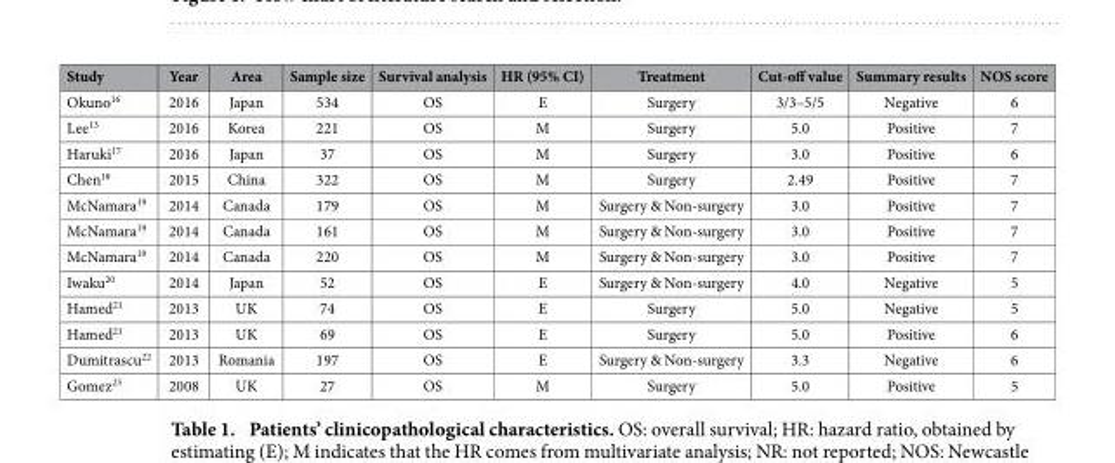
<table><thead><tr><td>Study</td><td>Year</td><td>Area</td><td>Sample size</td><td>Survival analysis</td><td>HR (95% CI)</td><td>Treatment</td><td>Cut-off value</td><td>Summary results</td><td>NOS score</td></tr></thead><tbody><tr><td>Okuno<sup>16</sup></td><td>2016</td><td>Japan</td><td>534</td><td>OS</td><td>E</td><td>Surgery</td><td>3/3–5/5</td><td>Negative</td><td>6</td></tr><tr><td>Lee<sup>13</sup></td><td>2016</td><td>Korea</td><td>221</td><td>OS</td><td>M</td><td>Surgery</td><td>5.0</td><td>Positive</td><td>7</td></tr><tr><td>Haruki<sup>17</sup></td><td>2016</td><td>Japan</td><td>37</td><td>OS</td><td>M</td><td>Surgery</td><td>3.0</td><td>Positive</td><td>6</td></tr><tr><td>Chen<sup>18</sup></td><td>2015</td><td>China</td><td>322</td><td>OS</td><td>M</td><td>Surgery</td><td>2.49</td><td>Positive</td><td>7</td></tr><tr><td>McNamara<sup>19</sup></td><td>2014</td><td>Canada</td><td>179</td><td>OS</td><td>M</td><td>Surgery &amp; Non-surgery</td><td>3.0</td><td>Positive</td><td>7</td></tr><tr><td>McNamara<sup>19</sup></td><td>2014</td><td>Canada</td><td>161</td><td>OS</td><td>M</td><td>Surgery &amp; Non-surgery</td><td>3.0</td><td>Positive</td><td>7</td></tr><tr><td>McNamara<sup>19</sup></td><td>2014</td><td>Canada</td><td>220</td><td>OS</td><td>M</td><td>Surgery &amp; Non-surgery</td><td>3.0</td><td>Positive</td><td>7</td></tr><tr><td>Iwaku<sup>20</sup></td><td>2014</td><td>Japan</td><td>52</td><td>OS</td><td>E</td><td>Surgery &amp; Non-surgery</td><td>4.0</td><td>Negative</td><td>5</td></tr><tr><td>Hamed<sup>21</sup></td><td>2013</td><td>UK</td><td>74</td><td>OS</td><td>E</td><td>Surgery</td><td>5.0</td><td>Negative</td><td>5</td></tr><tr><td>Hamed<sup>21</sup></td><td>2013</td><td>UK</td><td>69</td><td>OS</td><td>E</td><td>Surgery</td><td>5.0</td><td>Positive</td><td>6</td></tr><tr><td>Dumitrascu<sup>22</sup></td><td>2013</td><td>Romania</td><td>197</td><td>OS</td><td>E</td><td>Surgery &amp; Non-surgery</td><td>3.3</td><td>Negative</td><td>6</td></tr><tr><td>Gomez<sup>23</sup></td><td>2008</td><td>UK</td><td>27</td><td>OS</td><td>M</td><td>Surgery</td><td>5.0</td><td>Positive</td><td>5</td></tr></tbody></table>